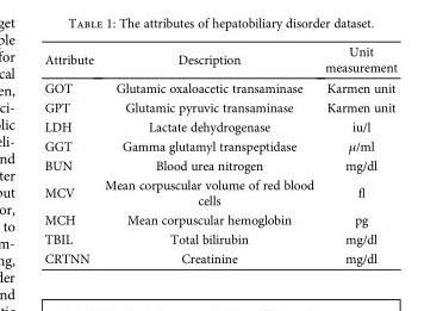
<table><thead><tr><td>Attribute</td><td>Description</td><td>Unit measurement</td></tr></thead><tbody><tr><td>GOT</td><td>Glutamic oxaloacetic transaminase</td><td>Karmen unit</td></tr><tr><td>GPT</td><td>Glutamic pyruvic transaminase</td><td>Karmen unit</td></tr><tr><td>LDH</td><td>Lactate dehydrogenase</td><td>iu/l</td></tr><tr><td>GGT</td><td>Gamma glutamyl transpeptidase</td><td>μ/ml</td></tr><tr><td>BUN</td><td>Blood urea nitrogen</td><td>mg/dl</td></tr><tr><td>MCV</td><td>Mean corpuscular volume of red blood cells</td><td>fl</td></tr><tr><td>MCH</td><td>Mean corpuscular hemoglobin</td><td>pg</td></tr><tr><td>TBIL</td><td>Total bilirubin</td><td>mg/dl</td></tr><tr><td>CRTNN</td><td>Creatinine</td><td>mg/dl</td></tr></tbody></table>